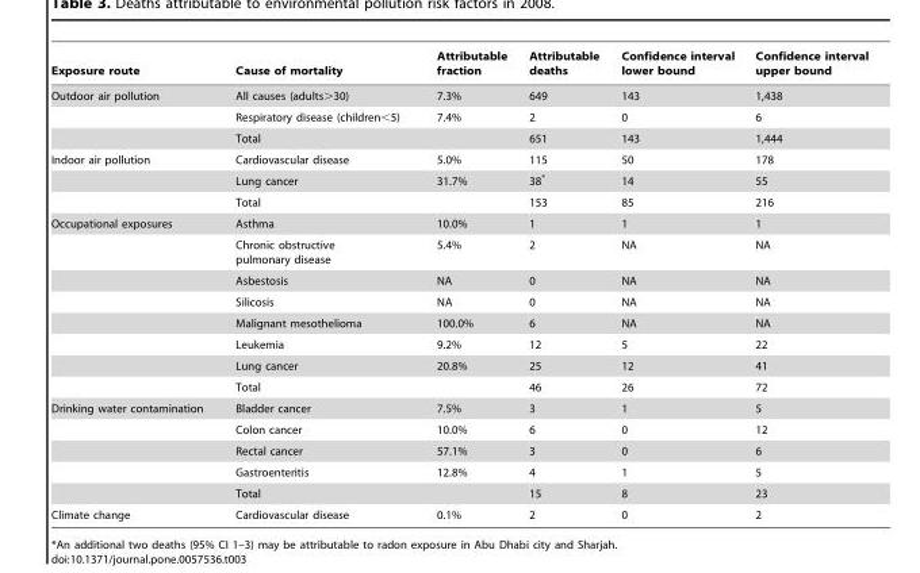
<table><thead><tr><td>Exposure route</td><td>Cause of mortality</td><td>Attributable fraction</td><td>Attributable deaths</td><td>Confidence interval lower bound</td><td>Confidence interval upper bound</td></tr></thead><tbody><tr><td rowspan="3">Outdoor air pollution</td><td>All causes (adults&gt;30)</td><td>7.3%</td><td>649</td><td>143</td><td>1,438</td></tr><tr><td>Respiratory disease (children&lt;5)</td><td>7.4%</td><td>2</td><td>0</td><td>6</td></tr><tr><td>Total</td><td></td><td>651</td><td>143</td><td>1,444</td></tr><tr><td rowspan="3">Indoor air pollution</td><td>Cardiovascular disease</td><td>5.0%</td><td>115</td><td>50</td><td>178</td></tr><tr><td>Lung cancer</td><td>31.7%</td><td>38*</td><td>14</td><td>55</td></tr><tr><td>Total</td><td></td><td>153</td><td>85</td><td>216</td></tr><tr><td rowspan="8">Occupational exposures</td><td>Asthma</td><td>10.0%</td><td>1</td><td>1</td><td>1</td></tr><tr><td>Chronic obstructive pulmonary disease</td><td>5.4%</td><td>2</td><td>NA</td><td>NA</td></tr><tr><td>Asbestosis</td><td>NA</td><td>0</td><td>NA</td><td>NA</td></tr><tr><td>Silicosis</td><td>NA</td><td>0</td><td>NA</td><td>NA</td></tr><tr><td>Malignant mesothelioma</td><td>100.0%</td><td>6</td><td>NA</td><td>NA</td></tr><tr><td>Leukemia</td><td>9.2%</td><td>12</td><td>5</td><td>22</td></tr><tr><td>Lung cancer</td><td>20.8%</td><td>25</td><td>12</td><td>41</td></tr><tr><td>Total</td><td></td><td>46</td><td>26</td><td>72</td></tr><tr><td rowspan="5">Drinking water contamination</td><td>Bladder cancer</td><td>7.5%</td><td>3</td><td>1</td><td>5</td></tr><tr><td>Colon cancer</td><td>10.0%</td><td>6</td><td>0</td><td>12</td></tr><tr><td>Rectal cancer</td><td>57.1%</td><td>3</td><td>0</td><td>6</td></tr><tr><td>Gastroenteritis</td><td>12.8%</td><td>4</td><td>1</td><td>5</td></tr><tr><td>Total</td><td></td><td>15</td><td>8</td><td>23</td></tr><tr><td>Climate change</td><td>Cardiovascular disease</td><td>0.1%</td><td>2</td><td>0</td><td>2</td></tr></tbody></table>